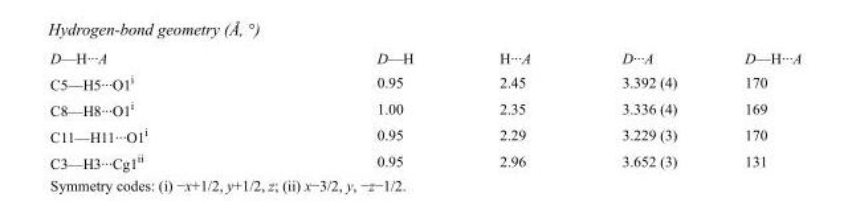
<table><tbody><tr><td>D—H···A</td><td>D—H</td><td>H···A</td><td>D···A</td><td>D—H···A</td></tr><tr><td>C5—H5···O1<sup>i</sup></td><td>0.95</td><td>2.45</td><td>3.392 (4)</td><td>170</td></tr><tr><td>C8—H8···O1<sup>i</sup></td><td>1.00</td><td>2.35</td><td>3.336 (4)</td><td>169</td></tr><tr><td>C11—H11···O1<sup>i</sup></td><td>0.95</td><td>2.29</td><td>3.229 (3)</td><td>170</td></tr><tr><td>C3—H3···Cg1<sup>ii</sup></td><td>0.95</td><td>2.96</td><td>3.652 (3)</td><td>131</td></tr></tbody></table>